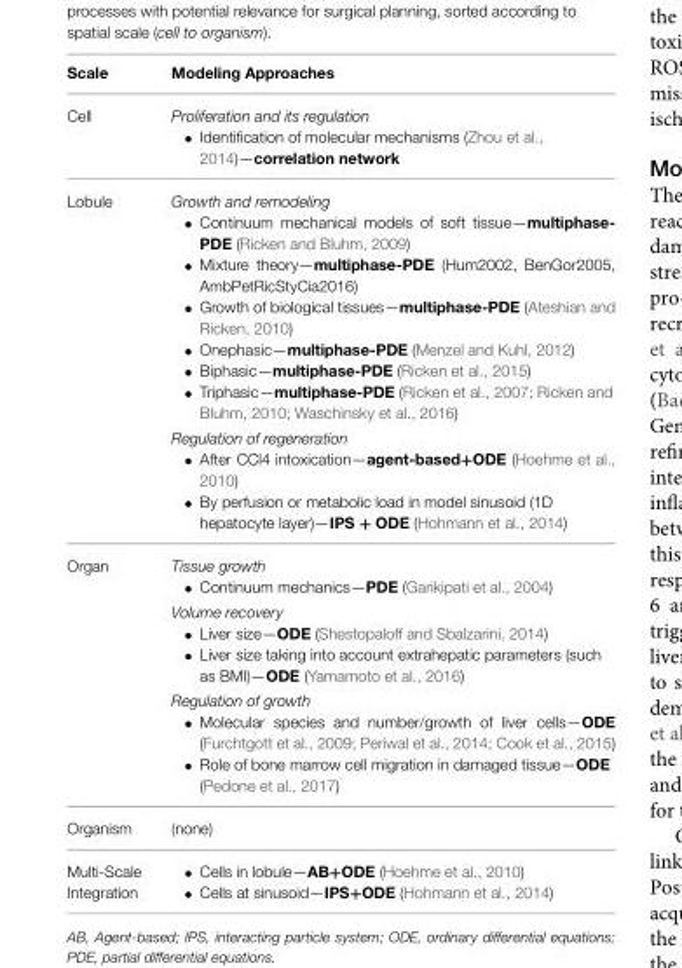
<table><thead><tr><td>Scale</td><td>Modeling Approaches</td></tr></thead><tbody><tr><td>Cell</td><td>Proliferation and its regulation • Identification of molecular mechanisms (Zhou et al., 2014)—correlation network</td></tr><tr><td rowspan="2">Lobule</td><td>Growth and remodeling • Continuum mechanical models of soft tissue—multiphase- PDE (Ricken and Bluhm, 2009) • Mixture theory—multiphase-PDE (Hum2002, BenGor2005, AmbPetRicStyCia2016) • Growth of biological tissues—multiphase-PDE (Ateshian and Ricken, 2010) • Onephasic—multiphase-PDE (Menzel and Kuhl, 2012) • Biphasic—multiphase-PDE (Ricken et al., 2015) • Triphasic—multiphase-PDE (Ricken et al., 2007; Ricken and Bluhm, 2010; Waschinsky et al., 2016)</td></tr><tr><td>Regulation of regeneration • After CCl4 intoxication—agent-based+ODE (Hoehme et al., 2010) • By perfusion or metabolic load in model sinusoid (1D hepatocyte layer)—IPS + ODE (Hohmann et al., 2014)</td></tr><tr><td rowspan="3">Organ</td><td>Tissue growth • Continuum mechanics—PDE (Garikipati et al., 2004)</td></tr><tr><td>Volume recovery • Liver size—ODE (Shestopaloff and Sbalzarini, 2014) • Liver size taking into account extrahepatic parameters (such as BMI)—ODE (Yamamoto et al., 2016)</td></tr><tr><td>Regulation of growth • Molecular species and number/growth of liver cells—ODE (Furchtgott et al., 2009; Periwal et al., 2014; Cook et al., 2015) • Role of bone marrow cell migration in damaged tissue—ODE (Pedone et al., 2017)</td></tr><tr><td>Organism</td><td>(none)</td></tr><tr><td>Multi-Scale Integration</td><td>• Cells in lobule—AB+ODE (Hoehme et al., 2010) • Cells at sinusoid—IPS+ODE (Hohmann et al., 2014)</td></tr></tbody></table>